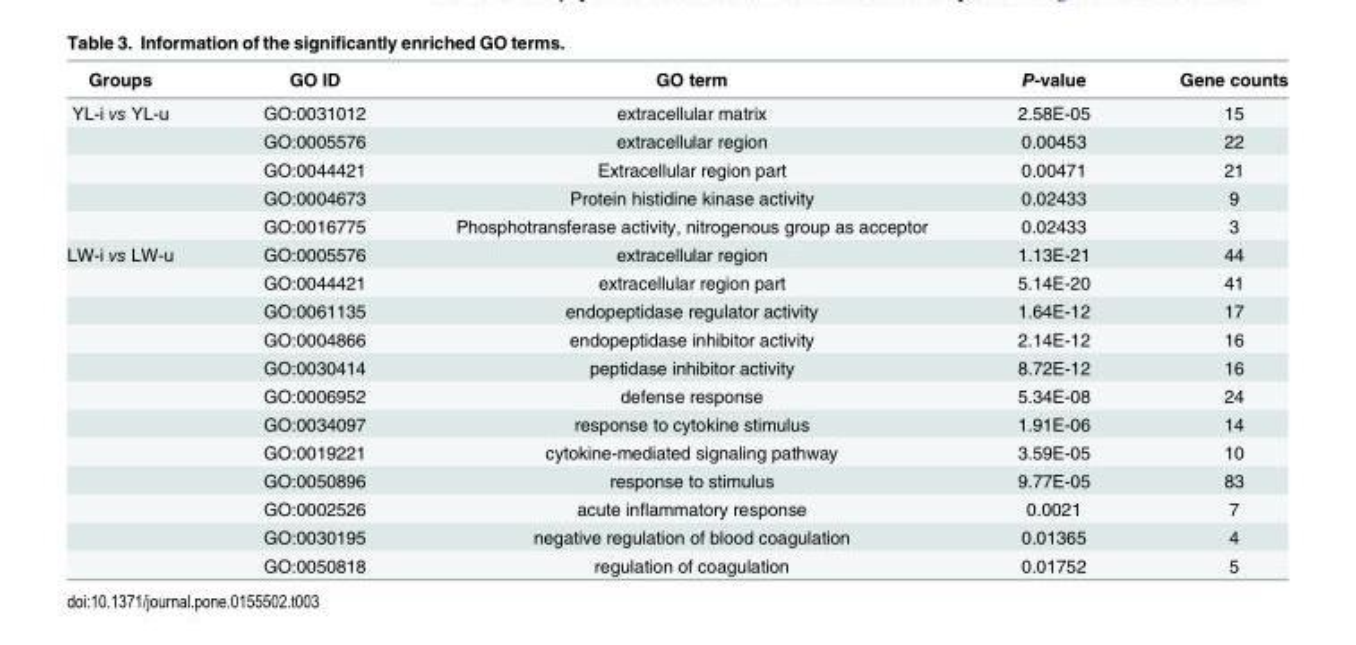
<table><thead><tr><td>Groups</td><td>GO ID</td><td>GO term</td><td>P-value</td><td>Gene counts</td></tr></thead><tbody><tr><td rowspan="5">YL-i vs YL-u</td><td>GO:0031012</td><td>extracellular matrix</td><td>2.58E-05</td><td>15</td></tr><tr><td>GO:0005576</td><td>extracellular region</td><td>0.00453</td><td>22</td></tr><tr><td>GO:0044421</td><td>Extracellular region part</td><td>0.00471</td><td>21</td></tr><tr><td>GO:0004673</td><td>Protein histidine kinase activity</td><td>0.02433</td><td>9</td></tr><tr><td>GO:0016775</td><td>Phosphotransferase activity, nitrogenous group as acceptor</td><td>0.02433</td><td>3</td></tr><tr><td rowspan="12">LW-i vs LW-u</td><td>GO:0005576</td><td>extracellular region</td><td>1.13E-21</td><td>44</td></tr><tr><td>GO:0044421</td><td>extracellular region part</td><td>5.14E-20</td><td>41</td></tr><tr><td>GO:0061135</td><td>endopeptidase regulator activity</td><td>1.64E-12</td><td>17</td></tr><tr><td>GO:0004866</td><td>endopeptidase inhibitor activity</td><td>2.14E-12</td><td>16</td></tr><tr><td>GO:0030414</td><td>peptidase inhibitor activity</td><td>8.72E-12</td><td>16</td></tr><tr><td>GO:0006952</td><td>defense response</td><td>5.34E-08</td><td>24</td></tr><tr><td>GO:0034097</td><td>response to cytokine stimulus</td><td>1.91E-06</td><td>14</td></tr><tr><td>GO:0019221</td><td>cytokine-mediated signaling pathway</td><td>3.59E-05</td><td>10</td></tr><tr><td>GO:0050896</td><td>response to stimulus</td><td>9.77E-05</td><td>83</td></tr><tr><td>GO:0002526</td><td>acute inflammatory response</td><td>0.0021</td><td>7</td></tr><tr><td>GO:0030195</td><td>negative regulation of blood coagulation</td><td>0.01365</td><td>4</td></tr><tr><td>GO:0050818</td><td>regulation of coagulation</td><td>0.01752</td><td>5</td></tr></tbody></table>